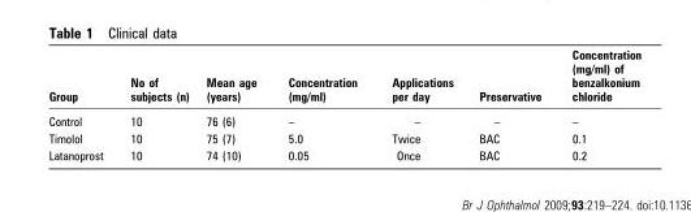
<table><thead><tr><td>Group</td><td>No of subjects (n)</td><td>Mean age (years)</td><td>Concentration (mg/ml)</td><td>Applications per day</td><td>Preservative</td><td>Concentration (mg/ml) of benzalkonium chloride</td></tr></thead><tbody><tr><td>Control</td><td>10</td><td>76 (6)</td><td>–</td><td>–</td><td>–</td><td>–</td></tr><tr><td>Timolol</td><td>10</td><td>75 (7)</td><td>5.0</td><td>Twice</td><td>BAC</td><td>0.1</td></tr><tr><td>Latanoprost</td><td>10</td><td>74 (10)</td><td>0.05</td><td>Once</td><td>BAC</td><td>0.2</td></tr></tbody></table>